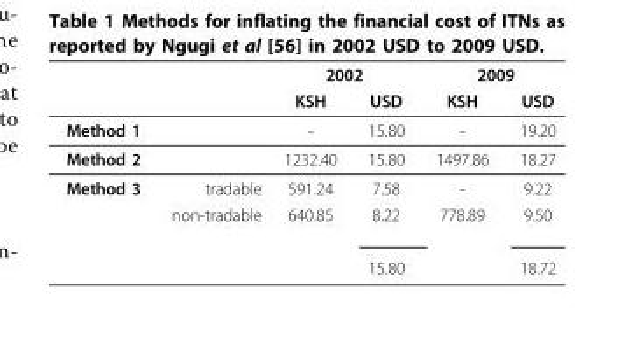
<table><thead><tr><td rowspan="2"></td><td rowspan="2"></td><td colspan="2">2002</td><td colspan="2">2009</td></tr><tr><td>KSH</td><td>USD</td><td>KSH</td><td>USD</td></tr></thead><tbody><tr><td>Method 1</td><td></td><td>-</td><td>15.80</td><td>-</td><td>19.20</td></tr><tr><td>Method 2</td><td></td><td>1232.40</td><td>15.80</td><td>1497.86</td><td>18.27</td></tr><tr><td rowspan="3">Method 3</td><td>tradable</td><td>591.24</td><td>7.58</td><td>-</td><td>9.22</td></tr><tr><td>non-tradable</td><td>640.85</td><td>8.22</td><td>778.89</td><td>9.50</td></tr><tr><td></td><td></td><td>15.80</td><td></td><td>18.72</td></tr></tbody></table>